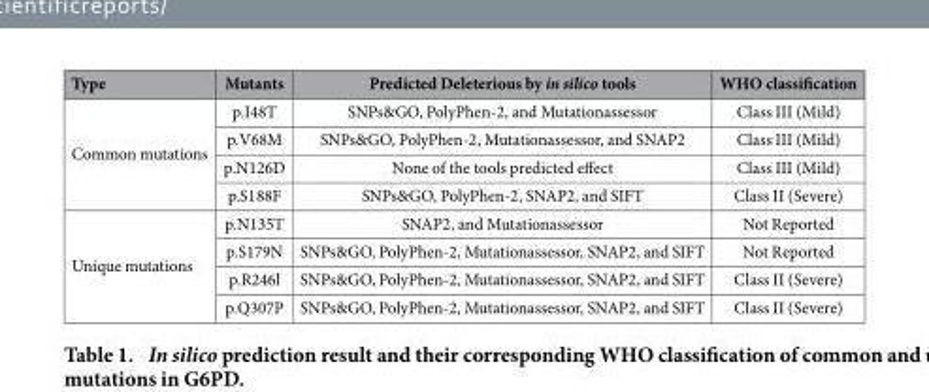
<table><thead><tr><td>Type</td><td>Mutants</td><td>Predicted Deleterious by in silico tools</td><td>WHO classification</td></tr></thead><tbody><tr><td rowspan="4">Common mutations</td><td>p.I48T</td><td>SNPs&amp;GO, PolyPhen-2, and Mutationassessor</td><td>Class III (Mild)</td></tr><tr><td>p.V68M</td><td>SNPs&amp;GO, PolyPhen-2, Mutationassessor, and SNAP2</td><td>Class III (Mild)</td></tr><tr><td>p.N126D</td><td>None of the tools predicted effect</td><td>Class III (Mild)</td></tr><tr><td>p.S188F</td><td>SNPs&amp;GO, PolyPhen-2, SNAP2, and SIFT</td><td>Class II (Severe)</td></tr><tr><td rowspan="4">Unique mutations</td><td>p.N135T</td><td>SNAP2, and Mutationassessor</td><td>Not Reported</td></tr><tr><td>p.S179N</td><td>SNPs&amp;GO, PolyPhen-2, Mutationassessor, SNAP2, and SIFT</td><td>Not Reported</td></tr><tr><td>p.R246l</td><td>SNPs&amp;GO, PolyPhen-2, Mutationassessor, SNAP2, and SIFT</td><td>Class II (Severe)</td></tr><tr><td>p.Q307P</td><td>SNPs&amp;GO, PolyPhen-2, Mutationassessor, SNAP2, and SIFT</td><td>Class II (Severe)</td></tr></tbody></table>